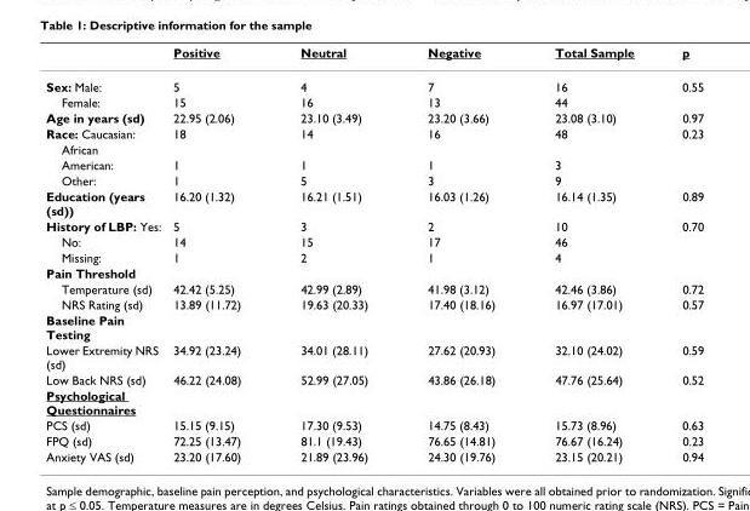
<table><thead><tr><td></td><td>Positive</td><td>Neutral</td><td>Negative</td><td>Total Sample</td><td>p</td></tr></thead><tbody><tr><td>Sex: Male:</td><td>5</td><td>4</td><td>7</td><td>16</td><td>0.55</td></tr><tr><td>Female:</td><td>15</td><td>16</td><td>13</td><td>44</td><td></td></tr><tr><td>Age in years (sd)</td><td>22.95 (2.06)</td><td>23.10 (3.49)</td><td>23.20 (3.66)</td><td>23.08 (3.10)</td><td>0.97</td></tr><tr><td>Race: Caucasian:</td><td>18</td><td>14</td><td>16</td><td>48</td><td>0.23</td></tr><tr><td colspan="6">African</td></tr><tr><td>American:</td><td>1</td><td>1</td><td>1</td><td>3</td><td></td></tr><tr><td>Other:</td><td>1</td><td>5</td><td>3</td><td>9</td><td></td></tr><tr><td>Education (years (sd))</td><td>16.20 (1.32)</td><td>16.21 (1.51)</td><td>16.03 (1.26)</td><td>16.14 (1.35)</td><td>0.89</td></tr><tr><td>History of LBP: Yes:</td><td>5</td><td>3</td><td>2</td><td>10</td><td>0.70</td></tr><tr><td>No:</td><td>14</td><td>15</td><td>17</td><td>46</td><td></td></tr><tr><td>Missing:</td><td>1</td><td>2</td><td>1</td><td>4</td><td></td></tr><tr><td colspan="6">Pain Threshold</td></tr><tr><td>Temperature (sd)</td><td>42.42 (5.25)</td><td>42.99 (2.89)</td><td>41.98 (3.12)</td><td>42.46 (3.86)</td><td>0.72</td></tr><tr><td>NRS Rating (sd)</td><td>13.89 (11.72)</td><td>19.63 (20.33)</td><td>17.40 (18.16)</td><td>16.97 (17.01)</td><td>0.57</td></tr><tr><td colspan="6">Baseline Pain Testing</td></tr><tr><td>Lower Extremity NRS (sd)</td><td>34.92 (23.24)</td><td>34.01 (28.11)</td><td>27.62 (20.93)</td><td>32.10 (24.02)</td><td>0.59</td></tr><tr><td>Low Back NRS (sd)</td><td>46.22 (24.08)</td><td>52.99 (27.05)</td><td>43.86 (26.18)</td><td>47.76 (25.64)</td><td>0.52</td></tr><tr><td colspan="6">Psychological Questionnaires</td></tr><tr><td>PCS (sd)</td><td>15.15 (9.15)</td><td>17.30 (9.53)</td><td>14.75 (8.43)</td><td>15.73 (8.96)</td><td>0.63</td></tr><tr><td>FPQ (sd)</td><td>72.25 (13.47)</td><td>81.1 (19.43)</td><td>76.65 (14.81)</td><td>76.67 (16.24)</td><td>0.23</td></tr><tr><td>Anxiety VAS (sd)</td><td>23.20 (17.60)</td><td>21.89 (23.96)</td><td>24.30 (19.76)</td><td>23.15 (20.21)</td><td>0.94</td></tr></tbody></table>